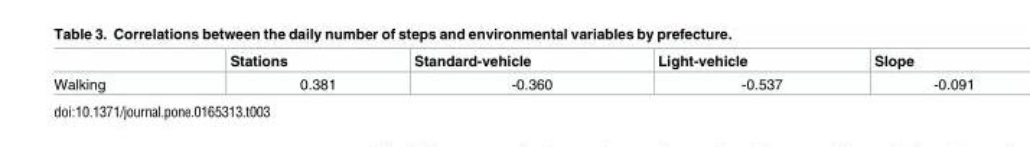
<table><thead><tr><td></td><td>Stations</td><td>Standard-vehicle</td><td>Light-vehicle</td><td>Slope</td></tr></thead><tbody><tr><td>Walking</td><td>0.381</td><td>-0.360</td><td>-0.537</td><td>-0.091</td></tr></tbody></table>